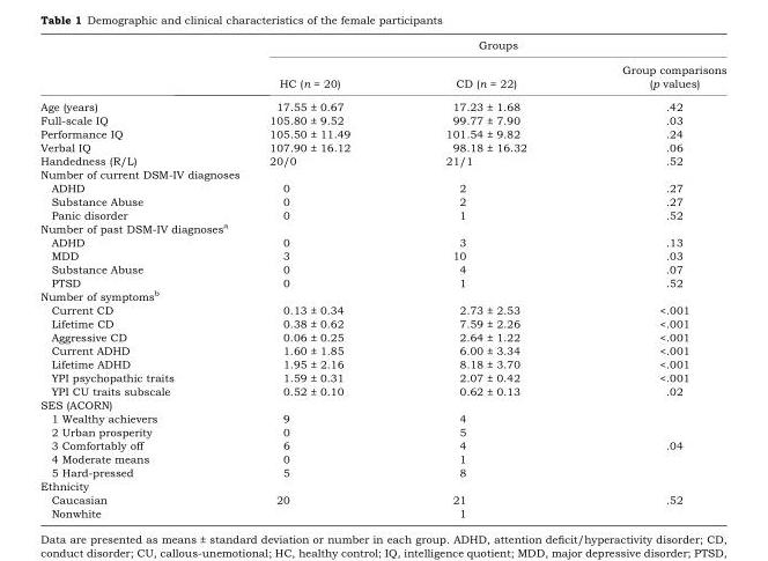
<table><thead><tr><td rowspan="2"></td><td colspan="3">Groups</td></tr><tr><td>HC (n = 20)</td><td>CD (n = 22)</td><td>Group comparisons (p values)</td></tr></thead><tbody><tr><td>Age (years)</td><td>17.55 ± 0.67</td><td>17.23 ± 1.68</td><td>.42</td></tr><tr><td>Full-scale IQ</td><td>105.80 ± 9.52</td><td>99.77 ± 7.90</td><td>.03</td></tr><tr><td>Performance IQ</td><td>105.50 ± 11.49</td><td>101.54 ± 9.82</td><td>.24</td></tr><tr><td>Verbal IQ</td><td>107.90 ± 16.12</td><td>98.18 ± 16.32</td><td>.06</td></tr><tr><td>Handedness (R/L)</td><td>20/0</td><td>21/1</td><td>.52</td></tr><tr><td colspan="4">Number of current DSM-IV diagnoses</td></tr><tr><td>ADHD</td><td>0</td><td>2</td><td>.27</td></tr><tr><td>Substance Abuse</td><td>0</td><td>2</td><td>.27</td></tr><tr><td>Panic disorder</td><td>0</td><td>1</td><td>.52</td></tr><tr><td colspan="4">Number of past DSM-IV diagnoses<sup>a</sup></td></tr><tr><td>ADHD</td><td>0</td><td>3</td><td>.13</td></tr><tr><td>MDD</td><td>3</td><td>10</td><td>.03</td></tr><tr><td>Substance Abuse</td><td>0</td><td>4</td><td>.07</td></tr><tr><td>PTSD</td><td>0</td><td>1</td><td>.52</td></tr><tr><td colspan="4">Number of symptoms<sup>b</sup></td></tr><tr><td>Current CD</td><td>0.13 ± 0.34</td><td>2.73 ± 2.53</td><td>&lt;.001</td></tr><tr><td>Lifetime CD</td><td>0.38 ± 0.62</td><td>7.59 ± 2.26</td><td>&lt;.001</td></tr><tr><td>Aggressive CD</td><td>0.06 ± 0.25</td><td>2.64 ± 1.22</td><td>&lt;.001</td></tr><tr><td>Current ADHD</td><td>1.60 ± 1.85</td><td>6.00 ± 3.34</td><td>&lt;.001</td></tr><tr><td>Lifetime ADHD</td><td>1.95 ± 2.16</td><td>8.18 ± 3.70</td><td>&lt;.001</td></tr><tr><td>YPI psychopathic traits</td><td>1.59 ± 0.31</td><td>2.07 ± 0.42</td><td>&lt;.001</td></tr><tr><td>YPI CU traits subscale</td><td>0.52 ± 0.10</td><td>0.62 ± 0.13</td><td>.02</td></tr><tr><td colspan="4">SES (ACORN)</td></tr><tr><td>1 Wealthy achievers</td><td>9</td><td>4</td><td></td></tr><tr><td>2 Urban prosperity</td><td>0</td><td>5</td><td></td></tr><tr><td>3 Comfortably off</td><td>6</td><td>4</td><td>.04</td></tr><tr><td>4 Moderate means</td><td>0</td><td>1</td><td></td></tr><tr><td>5 Hard-pressed</td><td>5</td><td>8</td><td></td></tr><tr><td colspan="4">Ethnicity</td></tr><tr><td>Caucasian</td><td>20</td><td>21</td><td>.52</td></tr><tr><td>Nonwhite</td><td></td><td>1</td><td></td></tr></tbody></table>